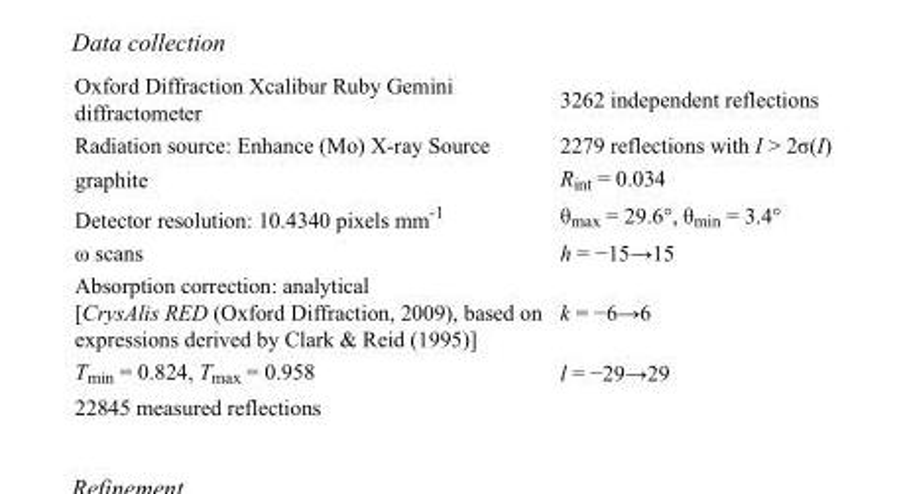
<table><tbody><tr><td>Oxford Diffraction Xcalibur Ruby Gemini diffractometer</td><td>3262 independent reflections</td></tr><tr><td>Radiation source: Enhance (Mo) X-ray Source</td><td>2279 reflections with I &gt; 2σ(I)</td></tr><tr><td>graphite</td><td>R<sub>int</sub> = 0.034</td></tr><tr><td>Detector resolution: 10.4340 pixels mm<sup>-1</sup></td><td>θ<sub>max</sub> = 29.6°, θ<sub>min</sub> = 3.4°</td></tr><tr><td>ω scans</td><td>h = −15→15</td></tr><tr><td>Absorption correction: analytical [CrysAlis RED (Oxford Diffraction, 2009), based on expressions derived by Clark &amp; Reid (1995)]</td><td>k = −6→6</td></tr><tr><td>T<sub>min</sub> = 0.824, T<sub>max</sub> = 0.958</td><td>l = −29→29</td></tr><tr><td>22845 measured reflections</td><td></td></tr></tbody></table>